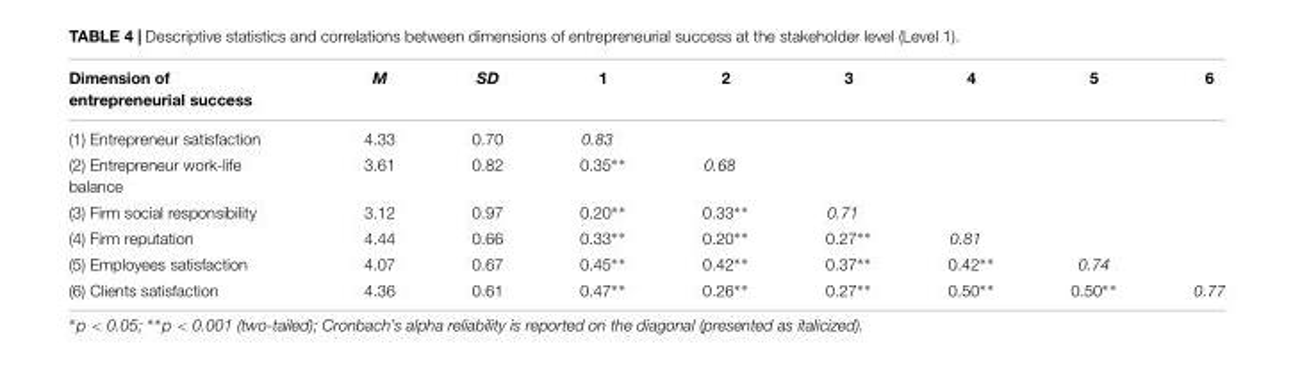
<table><thead><tr><td>Dimension of entrepreneurial success</td><td>M</td><td>SD</td><td>1</td><td>2</td><td>3</td><td>4</td><td>5</td><td>6</td></tr></thead><tbody><tr><td>(1) Entrepreneur satisfaction</td><td>4.33</td><td>0.70</td><td>0.83</td><td></td><td></td><td></td><td></td><td></td></tr><tr><td>(2) Entrepreneur work-life balance</td><td>3.61</td><td>0.82</td><td>0.35∗∗</td><td>0.68</td><td></td><td></td><td></td><td></td></tr><tr><td>(3) Firm social responsibility</td><td>3.12</td><td>0.97</td><td>0.20∗∗</td><td>0.33∗∗</td><td>0.71</td><td></td><td></td><td></td></tr><tr><td>(4) Firm reputation</td><td>4.44</td><td>0.66</td><td>0.33∗∗</td><td>0.20∗∗</td><td>0.27∗∗</td><td>0.81</td><td></td><td></td></tr><tr><td>(5) Employees satisfaction</td><td>4.07</td><td>0.67</td><td>0.45∗∗</td><td>0.42∗∗</td><td>0.37∗∗</td><td>0.42∗∗</td><td>0.74</td><td></td></tr><tr><td>(6) Clients satisfaction</td><td>4.36</td><td>0.61</td><td>0.47∗∗</td><td>0.26∗∗</td><td>0.27∗∗</td><td>0.50∗∗</td><td>0.50∗∗</td><td>0.77</td></tr></tbody></table>